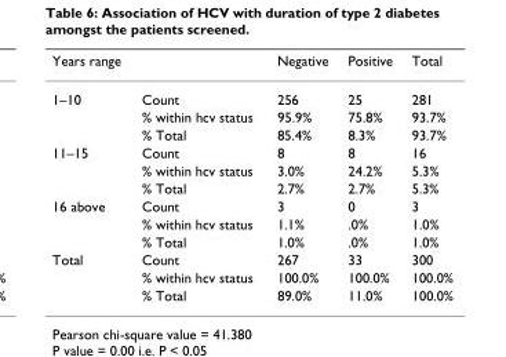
<table><thead><tr><td>Years range</td><td></td><td>Negative</td><td>Positive</td><td>Total</td></tr></thead><tbody><tr><td rowspan="3">1–10</td><td>Count</td><td>256</td><td>25</td><td>281</td></tr><tr><td>% within hcv status</td><td>95.9%</td><td>75.8%</td><td>93.7%</td></tr><tr><td>% Total</td><td>85.4%</td><td>8.3%</td><td>93.7%</td></tr><tr><td rowspan="3">11–15</td><td>Count</td><td>8</td><td>8</td><td>16</td></tr><tr><td>% within hcv status</td><td>3.0%</td><td>24.2%</td><td>5.3%</td></tr><tr><td>% Total</td><td>2.7%</td><td>2.7%</td><td>5.3%</td></tr><tr><td rowspan="3">16 above</td><td>Count</td><td>3</td><td>0</td><td>3</td></tr><tr><td>% within hcv status</td><td>1.1%</td><td>.0%</td><td>1.0%</td></tr><tr><td>% Total</td><td>1.0%</td><td>.0%</td><td>1.0%</td></tr><tr><td rowspan="3">Total</td><td>Count</td><td>267</td><td>33</td><td>300</td></tr><tr><td>% within hcv status</td><td>100.0%</td><td>100.0%</td><td>100.0%</td></tr><tr><td>% Total</td><td>89.0%</td><td>11.0%</td><td>100.0%</td></tr></tbody></table>